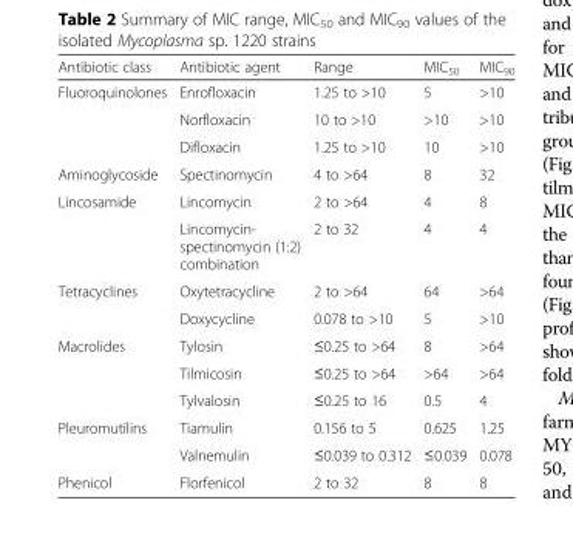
<table><thead><tr><td>Antibiotic class</td><td>Antibiotic agent</td><td>Range</td><td>MIC<sub>50</sub></td><td>MIC<sub>90</sub></td></tr></thead><tbody><tr><td rowspan="3">Fluoroquinolones</td><td>Enrofloxacin</td><td>1.25 to &gt;10</td><td>5</td><td>&gt;10</td></tr><tr><td>Norfloxacin</td><td>10 to &gt;10</td><td>&gt;10</td><td>&gt;10</td></tr><tr><td>Difloxacin</td><td>1.25 to &gt;10</td><td>10</td><td>&gt;10</td></tr><tr><td>Aminoglycoside</td><td>Spectinomycin</td><td>4 to &gt;64</td><td>8</td><td>32</td></tr><tr><td rowspan="2">Lincosamide</td><td>Lincomycin</td><td>2 to &gt;64</td><td>4</td><td>8</td></tr><tr><td>Lincomycin- spectinomycin (1:2) combination</td><td>2 to 32</td><td>4</td><td>4</td></tr><tr><td rowspan="2">Tetracyclines</td><td>Oxytetracycline</td><td>2 to &gt;64</td><td>64</td><td>&gt;64</td></tr><tr><td>Doxycycline</td><td>0.078 to &gt;10</td><td>5</td><td>&gt;10</td></tr><tr><td rowspan="3">Macrolides</td><td>Tylosin</td><td>≤0.25 to &gt;64</td><td>8</td><td>&gt;64</td></tr><tr><td>Tilmicosin</td><td>≤0.25 to &gt;64</td><td>&gt;64</td><td>&gt;64</td></tr><tr><td>Tylvalosin</td><td>≤0.25 to 16</td><td>0.5</td><td>4</td></tr><tr><td rowspan="2">Pleuromutilins</td><td>Tiamulin</td><td>0.156 to 5</td><td>0.625</td><td>1.25</td></tr><tr><td>Valnemulin</td><td>≤0.039 to 0.312</td><td>≤0.039</td><td>0.078</td></tr><tr><td>Phenicol</td><td>Florfenicol</td><td>2 to 32</td><td>8</td><td>8</td></tr></tbody></table>